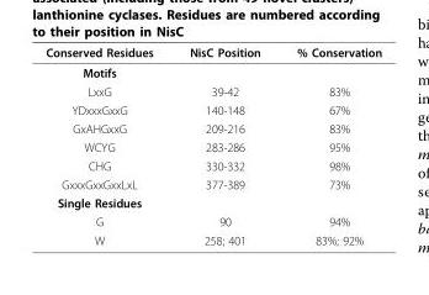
<table><thead><tr><td>Conserved Residues</td><td>NisC Position</td><td>% Conservation</td></tr></thead><tbody><tr><td colspan="3">Motifs</td></tr><tr><td>LxxG</td><td>39-42</td><td>83%</td></tr><tr><td>YDxxxGxxG</td><td>140-148</td><td>67%</td></tr><tr><td>GxAHGxxG</td><td>209-216</td><td>83%</td></tr><tr><td>WCYG</td><td>283-286</td><td>95%</td></tr><tr><td>CHG</td><td>330-332</td><td>98%</td></tr><tr><td>GxxxGxxGxxLxL</td><td>377-389</td><td>73%</td></tr><tr><td colspan="3">Single Residues</td></tr><tr><td>G</td><td>90</td><td>94%</td></tr><tr><td>W</td><td>258; 401</td><td>83%; 92%</td></tr></tbody></table>